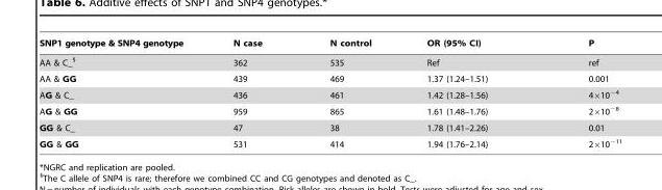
<table><thead><tr><td>SNP1 genotype &amp; SNP4 genotype</td><td>N case</td><td>N control</td><td>OR (95% CI)</td><td>P</td></tr></thead><tbody><tr><td>AA &amp; C_§</td><td>362</td><td>535</td><td>Ref</td><td>ref</td></tr><tr><td>AA &amp; GG</td><td>439</td><td>469</td><td>1.37 (1.24–1.51)</td><td>0.001</td></tr><tr><td>AG &amp; C_</td><td>436</td><td>461</td><td>1.42 (1.28–1.56)</td><td>4×10<sup>−4</sup></td></tr><tr><td>AG &amp; GG</td><td>959</td><td>865</td><td>1.61 (1.48–1.76)</td><td>2×10<sup>−8</sup></td></tr><tr><td>GG &amp; C_</td><td>47</td><td>38</td><td>1.78 (1.41–2.26)</td><td>0.01</td></tr><tr><td>GG &amp; GG</td><td>531</td><td>414</td><td>1.94 (1.76–2.14)</td><td>2×10<sup>−11</sup></td></tr></tbody></table>